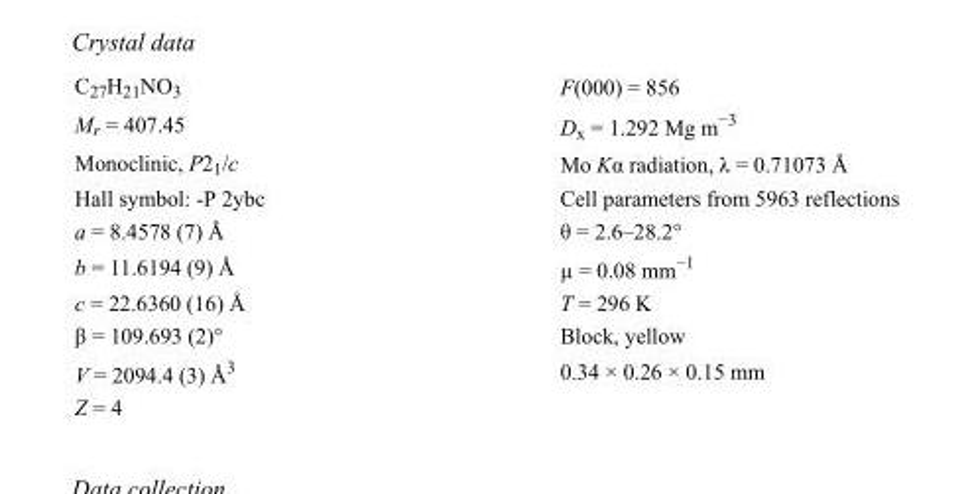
<table><tbody><tr><td>C<sub>27</sub>H<sub>21</sub>NO<sub>3</sub></td><td>F(000) = 856</td></tr><tr><td>M<sub>r</sub> = 407.45</td><td>D<sub>x</sub> = 1.292 Mg m<sup>−3</sup></td></tr><tr><td>Monoclinic, P2<sub>1</sub>/c</td><td>Mo Kα radiation, λ = 0.71073 Å</td></tr><tr><td>Hall symbol: -P 2ybc</td><td>Cell parameters from 5963 reflections</td></tr><tr><td>a = 8.4578 (7) Å</td><td>θ = 2.6–28.2°</td></tr><tr><td>b = 11.6194 (9) Å</td><td>µ = 0.08 mm<sup>−1</sup></td></tr><tr><td>c = 22.6360 (16) Å</td><td>T = 296 K</td></tr><tr><td>β = 109.693 (2)°</td><td>Block, yellow</td></tr><tr><td>V = 2094.4 (3) Å<sup>3</sup></td><td>0.34 × 0.26 × 0.15 mm</td></tr><tr><td>Z = 4</td><td></td></tr></tbody></table>